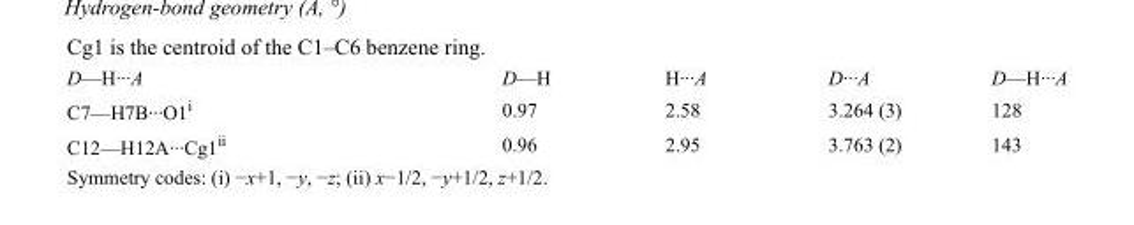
<table><tbody><tr><td>D—H···A</td><td>D—H</td><td>H···A</td><td>D···A</td><td>D—H···A</td></tr><tr><td>C7—H7B···O1<sup>i</sup></td><td>0.97</td><td>2.58</td><td>3.264 (3)</td><td>128</td></tr><tr><td>C12—H12A···Cg1<sup>ii</sup></td><td>0.96</td><td>2.95</td><td>3.763 (2)</td><td>143</td></tr></tbody></table>